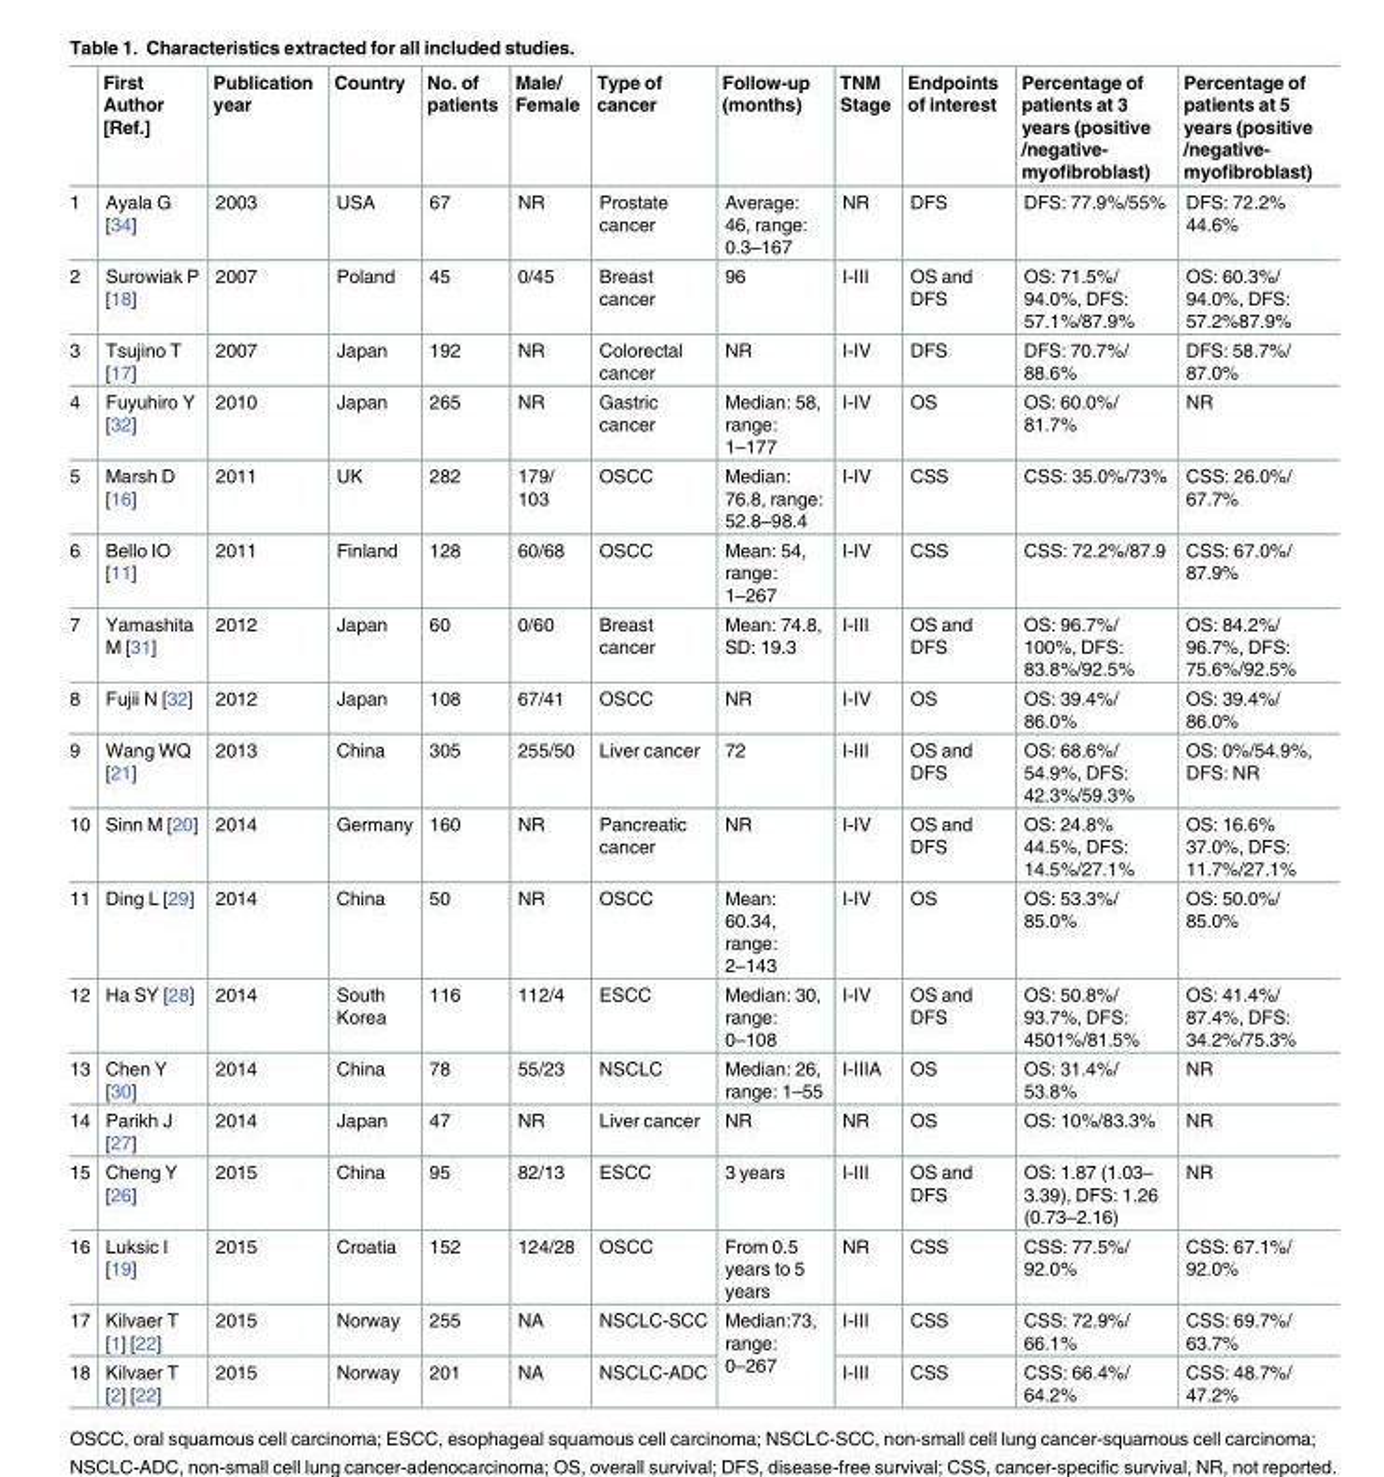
<table><thead><tr><td></td><td>First Author [Ref.]</td><td>Publication year</td><td>Country</td><td>No. of patients</td><td>Male/ Female</td><td>Type of cancer</td><td>Follow-up (months)</td><td>TNM Stage</td><td>Endpoints of interest</td><td>Percentage of patients at 3 years (positive /negative- myofibroblast)</td><td>Percentage of patients at 5 years (positive /negative- myofibroblast)</td></tr></thead><tbody><tr><td>1</td><td>Ayala G [34]</td><td>2003</td><td>USA</td><td>67</td><td>NR</td><td>Prostate cancer</td><td>Average: 46, range: 0.3–167</td><td>NR</td><td>DFS</td><td>DFS: 77.9%/55%</td><td>DFS: 72.2% 44.6%</td></tr><tr><td>2</td><td>Surowiak P [18]</td><td>2007</td><td>Poland</td><td>45</td><td>0/45</td><td>Breast cancer</td><td>96</td><td>I-III</td><td>OS and DFS</td><td>OS: 71.5%/ 94.0%, DFS: 57.1%/87.9%</td><td>OS: 60.3%/ 94.0%, DFS: 57.2%87.9%</td></tr><tr><td>3</td><td>Tsujino T [17]</td><td>2007</td><td>Japan</td><td>192</td><td>NR</td><td>Colorectal cancer</td><td>NR</td><td>I-IV</td><td>DFS</td><td>DFS: 70.7%/ 88.6%</td><td>DFS: 58.7%/ 87.0%</td></tr><tr><td>4</td><td>Fuyuhiro Y [32]</td><td>2010</td><td>Japan</td><td>265</td><td>NR</td><td>Gastric cancer</td><td>Median: 58, range: 1–177</td><td>I-IV</td><td>OS</td><td>OS: 60.0%/ 81.7%</td><td>NR</td></tr><tr><td>5</td><td>Marsh D [16]</td><td>2011</td><td>UK</td><td>282</td><td>179/ 103</td><td>OSCC</td><td>Median: 76.8, range: 52.8–98.4</td><td>I-IV</td><td>CSS</td><td>CSS: 35.0%/73%</td><td>CSS: 26.0%/ 67.7%</td></tr><tr><td>6</td><td>Bello IO [11]</td><td>2011</td><td>Finland</td><td>128</td><td>60/68</td><td>OSCC</td><td>Mean: 54, range: 1–267</td><td>I-IV</td><td>CSS</td><td>CSS: 72.2%/87.9</td><td>CSS: 67.0%/ 87.9%</td></tr><tr><td>7</td><td>Yamashita M [31]</td><td>2012</td><td>Japan</td><td>60</td><td>0/60</td><td>Breast cancer</td><td>Mean: 74.8, SD: 19.3</td><td>I-III</td><td>OS and DFS</td><td>OS: 96.7%/ 100%, DFS: 83.8%/92.5%</td><td>OS: 84.2%/ 96.7%, DFS: 75.6%/92.5%</td></tr><tr><td>8</td><td>Fujii N [32]</td><td>2012</td><td>Japan</td><td>108</td><td>67/41</td><td>OSCC</td><td>NR</td><td>I-IV</td><td>OS</td><td>OS: 39.4%/ 86.0%</td><td>OS: 39.4%/ 86.0%</td></tr><tr><td>9</td><td>Wang WQ [21]</td><td>2013</td><td>China</td><td>305</td><td>255/50</td><td>Liver cancer</td><td>72</td><td>I-III</td><td>OS and DFS</td><td>OS: 68.6%/ 54.9%, DFS: 42.3%/59.3%</td><td>OS: 0%/54.9%, DFS: NR</td></tr><tr><td>10</td><td>Sinn M [20]</td><td>2014</td><td>Germany</td><td>160</td><td>NR</td><td>Pancreatic cancer</td><td>NR</td><td>I-IV</td><td>OS and DFS</td><td>OS: 24.8% 44.5%, DFS: 14.5%/27.1%</td><td>OS: 16.6% 37.0%, DFS: 11.7%/27.1%</td></tr><tr><td>11</td><td>Ding L [29]</td><td>2014</td><td>China</td><td>50</td><td>NR</td><td>OSCC</td><td>Mean: 60.34, range: 2–143</td><td>I-IV</td><td>OS</td><td>OS: 53.3%/ 85.0%</td><td>OS: 50.0%/ 85.0%</td></tr><tr><td>12</td><td>Ha SY [28]</td><td>2014</td><td>South Korea</td><td>116</td><td>112/4</td><td>ESCC</td><td>Median: 30, range: 0–108</td><td>I-IV</td><td>OS and DFS</td><td>OS: 50.8%/ 93.7%, DFS: 4501%/81.5%</td><td>OS: 41.4%/ 87.4%, DFS: 34.2%/75.3%</td></tr><tr><td>13</td><td>Chen Y [30]</td><td>2014</td><td>China</td><td>78</td><td>55/23</td><td>NSCLC</td><td>Median: 26, range: 1–55</td><td>I-IIIA</td><td>OS</td><td>OS: 31.4%/ 53.8%</td><td>NR</td></tr><tr><td>14</td><td>Parikh J [27]</td><td>2014</td><td>Japan</td><td>47</td><td>NR</td><td>Liver cancer</td><td>NR</td><td>NR</td><td>OS</td><td>OS: 10%/83.3%</td><td>NR</td></tr><tr><td>15</td><td>Cheng Y [26]</td><td>2015</td><td>China</td><td>95</td><td>82/13</td><td>ESCC</td><td>3 years</td><td>I-III</td><td>OS and DFS</td><td>OS: 1.87 (1.03– 3.39), DFS: 1.26 (0.73–2.16)</td><td>NR</td></tr><tr><td>16</td><td>Luksic I [19]</td><td>2015</td><td>Croatia</td><td>152</td><td>124/28</td><td>OSCC</td><td>From 0.5 years to 5 years</td><td>NR</td><td>CSS</td><td>CSS: 77.5%/ 92.0%</td><td>CSS: 67.1%/ 92.0%</td></tr><tr><td>17</td><td>Kilvaer T [1] [22]</td><td>2015</td><td>Norway</td><td>255</td><td>NA</td><td>NSCLC-SCC</td><td rowspan="2">Median:73, range: 0–267</td><td>I-III</td><td>CSS</td><td>CSS: 72.9%/ 66.1%</td><td>CSS: 69.7%/ 63.7%</td></tr><tr><td>18</td><td>Kilvaer T [2] [22]</td><td>2015</td><td>Norway</td><td>201</td><td>NA</td><td>NSCLC-ADC</td><td>I-III</td><td>CSS</td><td>CSS: 66.4%/ 64.2%</td><td>CSS: 48.7%/ 47.2%</td></tr></tbody></table>